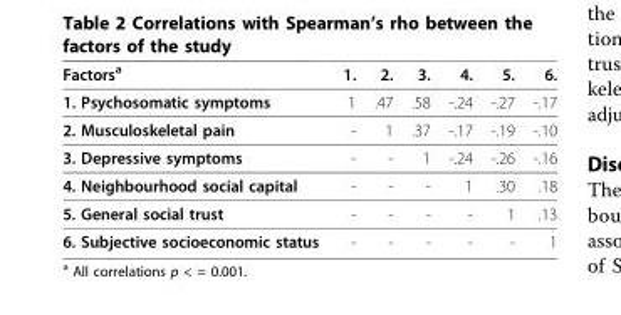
<table><thead><tr><td>Factors<sup>a</sup></td><td>1.</td><td>2.</td><td>3.</td><td>4.</td><td>5.</td><td>6.</td></tr></thead><tbody><tr><td>1. Psychosomatic symptoms</td><td>1</td><td>.47</td><td>.58</td><td>-.24</td><td>-.27</td><td>-.17</td></tr><tr><td>2. Musculoskeletal pain</td><td>-</td><td>1</td><td>.37</td><td>-.17</td><td>-.19</td><td>-.10</td></tr><tr><td>3. Depressive symptoms</td><td>-</td><td>-</td><td>1</td><td>-.24</td><td>-.26</td><td>-.16</td></tr><tr><td>4. Neighbourhood social capital</td><td>-</td><td>-</td><td>-</td><td>1</td><td>.30</td><td>.18</td></tr><tr><td>5. General social trust</td><td>-</td><td>-</td><td>-</td><td>-</td><td>1</td><td>.13</td></tr><tr><td>6. Subjective socioeconomic status</td><td>-</td><td>-</td><td>-</td><td>-</td><td>-</td><td>1</td></tr></tbody></table>